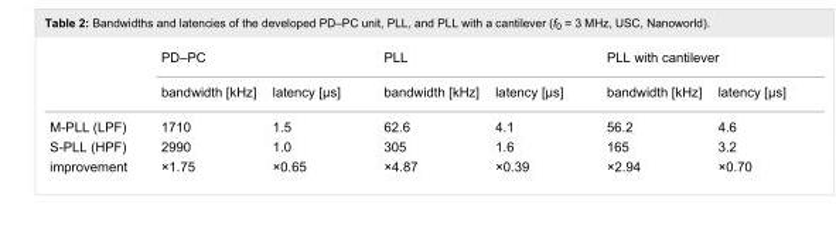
<table><thead><tr><td rowspan="2"></td><td colspan="2">PD–PC</td><td colspan="2">PLL</td><td colspan="2">PLL with cantilever</td></tr><tr><td>bandwidth [kHz]</td><td>latency [μs]</td><td>bandwidth [kHz]</td><td>latency [μs]</td><td>bandwidth [kHz]</td><td>latency [μs]</td></tr></thead><tbody><tr><td>M-PLL (LPF)</td><td>1710</td><td>1.5</td><td>62.6</td><td>4.1</td><td>56.2</td><td>4.6</td></tr><tr><td>S-PLL (HPF)</td><td>2990</td><td>1.0</td><td>305</td><td>1.6</td><td>165</td><td>3.2</td></tr><tr><td>improvement</td><td>×1.75</td><td>×0.65</td><td>×4.87</td><td>×0.39</td><td>×2.94</td><td>×0.70</td></tr></tbody></table>